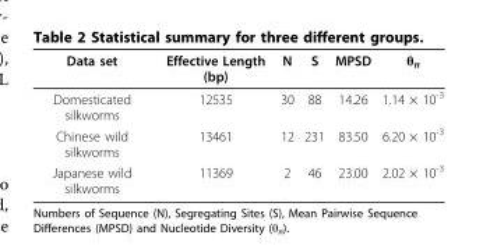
<table><thead><tr><td>Data set</td><td>Effective Length (bp)</td><td>N</td><td>S</td><td>MPSD</td><td>θ<sub>π</sub></td></tr></thead><tbody><tr><td>Domesticated silkworms</td><td>12535</td><td>30</td><td>88</td><td>14.26</td><td>1.14 × 10<sup>-3</sup></td></tr><tr><td>Chinese wild silkworms</td><td>13461</td><td>12</td><td>231</td><td>83.50</td><td>6.20 × 10<sup>-3</sup></td></tr><tr><td>Japanese wild silkworms</td><td>11369</td><td>2</td><td>46</td><td>23.00</td><td>2.02 × 10<sup>-3</sup></td></tr></tbody></table>